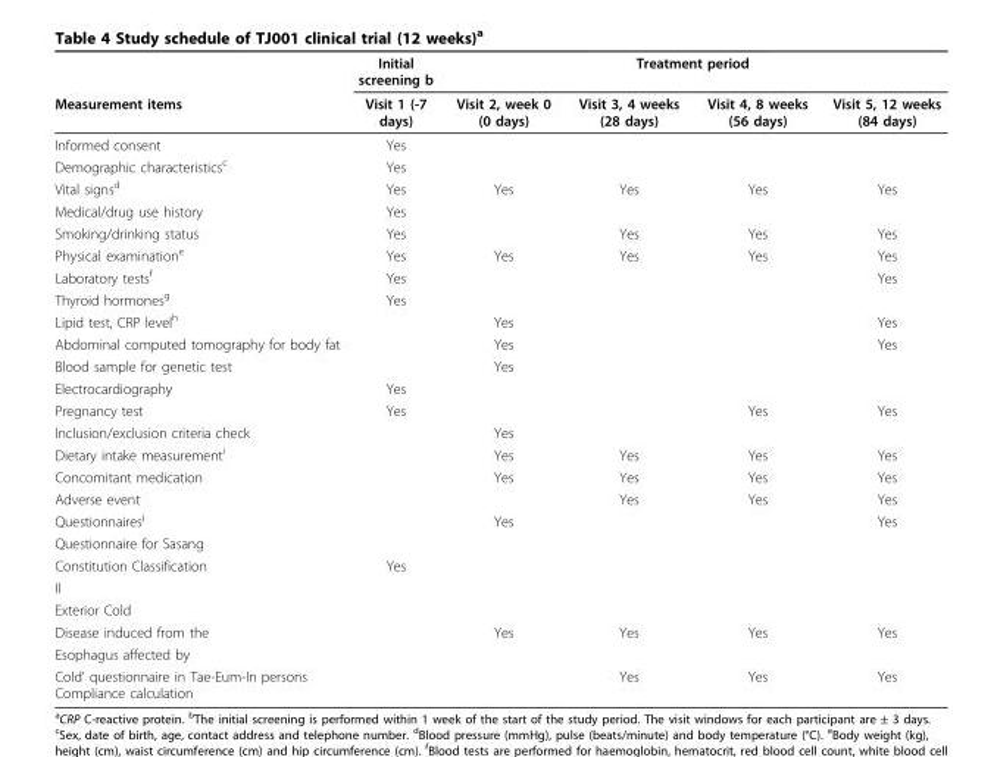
<table><thead><tr><td rowspan="2">Measurement items</td><td rowspan="2">Initial screening b Visit 1 (-7 days)</td><td rowspan="2">Visit 2, week 0 (0 days)</td><td colspan="2">Treatment period</td><td rowspan="2">Visit 5, 12 weeks (84 days)</td></tr><tr><td>Visit 3, 4 weeks (28 days)</td><td>Visit 4, 8 weeks (56 days)</td></tr></thead><tbody><tr><td>Informed consent</td><td>Yes</td><td></td><td></td><td></td><td></td></tr><tr><td>Demographic characteristics<sup>c</sup></td><td>Yes</td><td></td><td></td><td></td><td></td></tr><tr><td>Vital signs<sup>d</sup></td><td>Yes</td><td>Yes</td><td>Yes</td><td>Yes</td><td>Yes</td></tr><tr><td>Medical/drug use history</td><td>Yes</td><td></td><td></td><td></td><td></td></tr><tr><td>Smoking/drinking status</td><td>Yes</td><td></td><td>Yes</td><td>Yes</td><td>Yes</td></tr><tr><td>Physical examination<sup>e</sup></td><td>Yes</td><td>Yes</td><td>Yes</td><td>Yes</td><td>Yes</td></tr><tr><td>Laboratory tests<sup>f</sup></td><td>Yes</td><td></td><td></td><td></td><td>Yes</td></tr><tr><td>Thyroid hormones<sup>g</sup></td><td>Yes</td><td></td><td></td><td></td><td></td></tr><tr><td>Lipid test, CRP level<sup>h</sup></td><td></td><td>Yes</td><td></td><td></td><td>Yes</td></tr><tr><td>Abdominal computed tomography for body fat</td><td></td><td>Yes</td><td></td><td></td><td>Yes</td></tr><tr><td>Blood sample for genetic test</td><td></td><td>Yes</td><td></td><td></td><td></td></tr><tr><td>Electrocardiography</td><td>Yes</td><td></td><td></td><td></td><td></td></tr><tr><td>Pregnancy test</td><td>Yes</td><td></td><td></td><td>Yes</td><td>Yes</td></tr><tr><td>Inclusion/exclusion criteria check</td><td></td><td>Yes</td><td></td><td></td><td></td></tr><tr><td>Dietary intake measurement<sup>i</sup></td><td></td><td>Yes</td><td>Yes</td><td>Yes</td><td>Yes</td></tr><tr><td>Concomitant medication</td><td></td><td>Yes</td><td>Yes</td><td>Yes</td><td>Yes</td></tr><tr><td>Adverse event</td><td></td><td></td><td>Yes</td><td>Yes</td><td>Yes</td></tr><tr><td>Questionnaires<sup>j</sup></td><td></td><td>Yes</td><td></td><td></td><td>Yes</td></tr><tr><td colspan="6">Questionnaire for Sasang</td></tr><tr><td>Constitution Classification</td><td>Yes</td><td></td><td></td><td></td><td></td></tr><tr><td colspan="6">II</td></tr><tr><td colspan="6">Exterior Cold</td></tr><tr><td>Disease induced from the</td><td></td><td>Yes</td><td>Yes</td><td>Yes</td><td>Yes</td></tr><tr><td colspan="6">Esophagus affected by</td></tr><tr><td>Cold’ questionnaire in Tae-Eum-In persons Compliance calculation</td><td></td><td></td><td>Yes</td><td>Yes</td><td>Yes</td></tr></tbody></table>